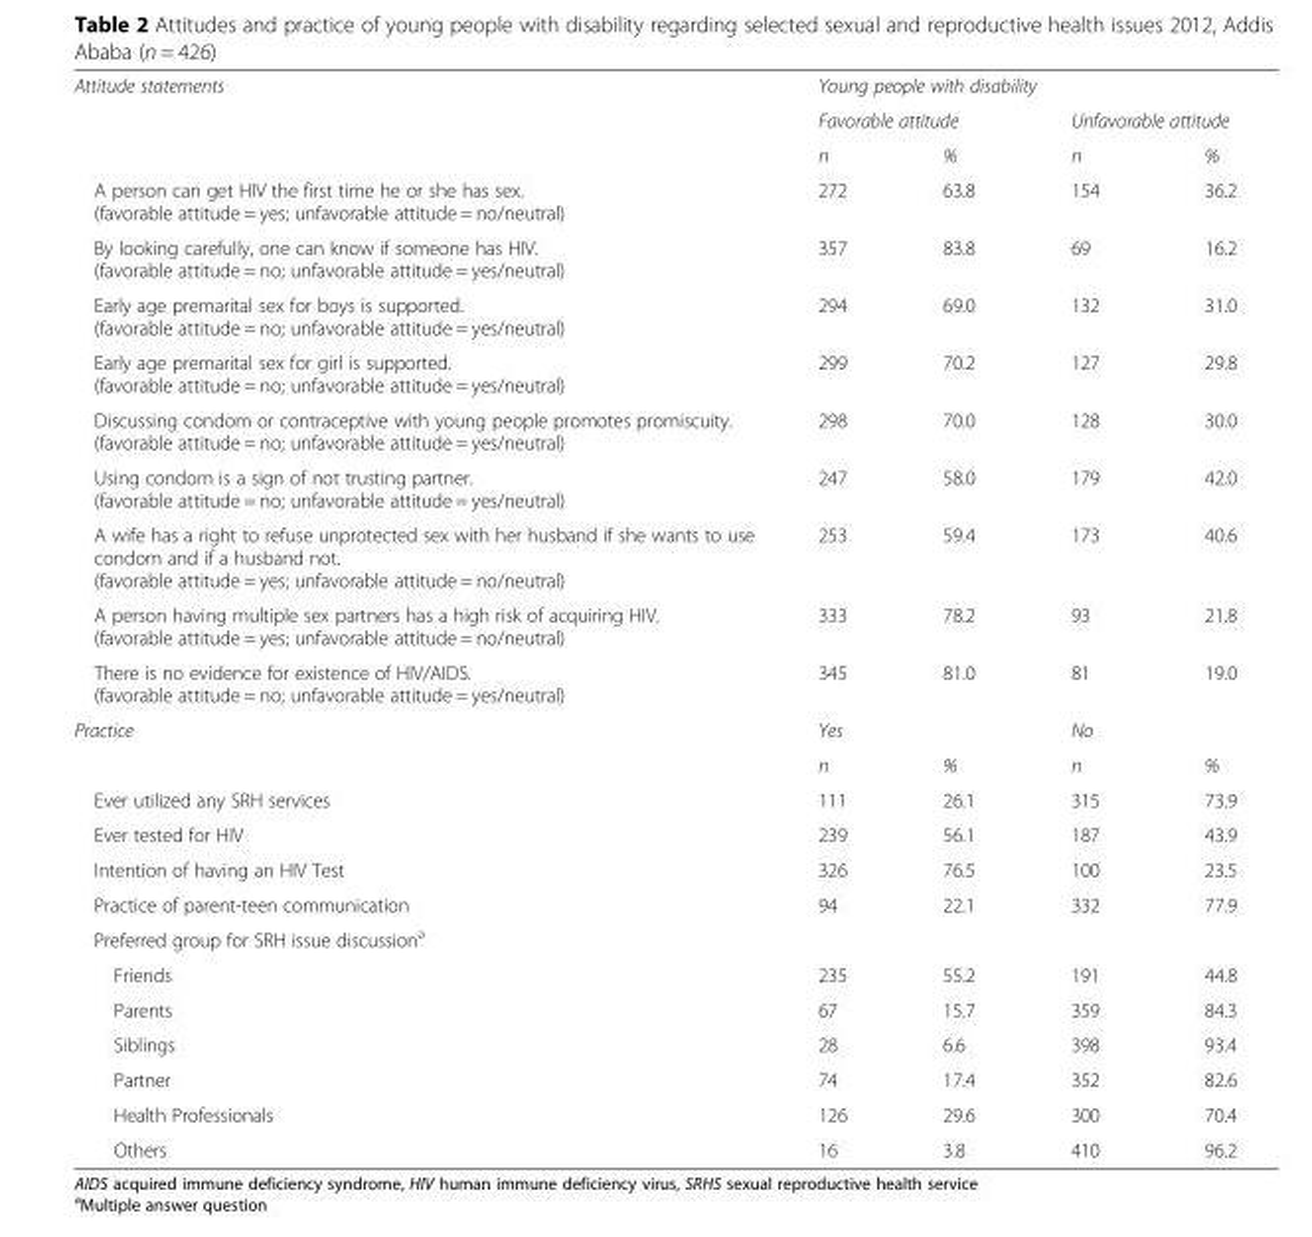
<table><tbody><tr><td rowspan="3">Attitude statements</td><td colspan="4">Young people with disability</td></tr><tr><td colspan="2">Favorable attitude</td><td colspan="2">Unfavorable attitude</td></tr><tr><td>n</td><td>%</td><td>n</td><td>%</td></tr><tr><td>A person can get HIV the first time he or she has sex. (favorable attitude = yes; unfavorable attitude = no/neutral)</td><td>272</td><td>63.8</td><td>154</td><td>36.2</td></tr><tr><td>By looking carefully, one can know if someone has HIV. (favorable attitude = no; unfavorable attitude = yes/neutral)</td><td>357</td><td>83.8</td><td>69</td><td>16.2</td></tr><tr><td>Early age premarital sex for boys is supported. (favorable attitude = no; unfavorable attitude = yes/neutral)</td><td>294</td><td>69.0</td><td>132</td><td>31.0</td></tr><tr><td>Early age premarital sex for girl is supported. (favorable attitude = no; unfavorable attitude = yes/neutral)</td><td>299</td><td>70.2</td><td>127</td><td>29.8</td></tr><tr><td>Discussing condom or contraceptive with young people promotes promiscuity. (favorable attitude = no; unfavorable attitude = yes/neutral)</td><td>298</td><td>70.0</td><td>128</td><td>30.0</td></tr><tr><td>Using condom is a sign of not trusting partner. (favorable attitude = no; unfavorable attitude = yes/neutral)</td><td>247</td><td>58.0</td><td>179</td><td>42.0</td></tr><tr><td>A wife has a right to refuse unprotected sex with her husband if she wants to use condom and if a husband not. (favorable attitude = yes; unfavorable attitude = no/neutral)</td><td>253</td><td>59.4</td><td>173</td><td>40.6</td></tr><tr><td>A person having multiple sex partners has a high risk of acquiring HIV. (favorable attitude = yes; unfavorable attitude = no/neutral)</td><td>333</td><td>78.2</td><td>93</td><td>21.8</td></tr><tr><td>There is no evidence for existence of HIV/AIDS. (favorable attitude = no; unfavorable attitude = yes/neutral)</td><td>345</td><td>81.0</td><td>81</td><td>19.0</td></tr><tr><td rowspan="2">Practice</td><td colspan="2">Yes</td><td colspan="2">No</td></tr><tr><td>n</td><td>%</td><td>n</td><td>%</td></tr><tr><td>Ever utilized any SRH services</td><td>111</td><td>26.1</td><td>315</td><td>73.9</td></tr><tr><td>Ever tested for HIV</td><td>239</td><td>56.1</td><td>187</td><td>43.9</td></tr><tr><td>Intention of having an HIV Test</td><td>326</td><td>76.5</td><td>100</td><td>23.5</td></tr><tr><td>Practice of parent-teen communication</td><td>94</td><td>22.1</td><td>332</td><td>77.9</td></tr><tr><td colspan="5">Preferred group for SRH issue discussion<sup>a</sup></td></tr><tr><td>Friends</td><td>235</td><td>55.2</td><td>191</td><td>44.8</td></tr><tr><td>Parents</td><td>67</td><td>15.7</td><td>359</td><td>84.3</td></tr><tr><td>Siblings</td><td>28</td><td>6.6</td><td>398</td><td>93.4</td></tr><tr><td>Partner</td><td>74</td><td>17.4</td><td>352</td><td>82.6</td></tr><tr><td>Health Professionals</td><td>126</td><td>29.6</td><td>300</td><td>70.4</td></tr><tr><td>Others</td><td>16</td><td>3.8</td><td>410</td><td>96.2</td></tr></tbody></table>